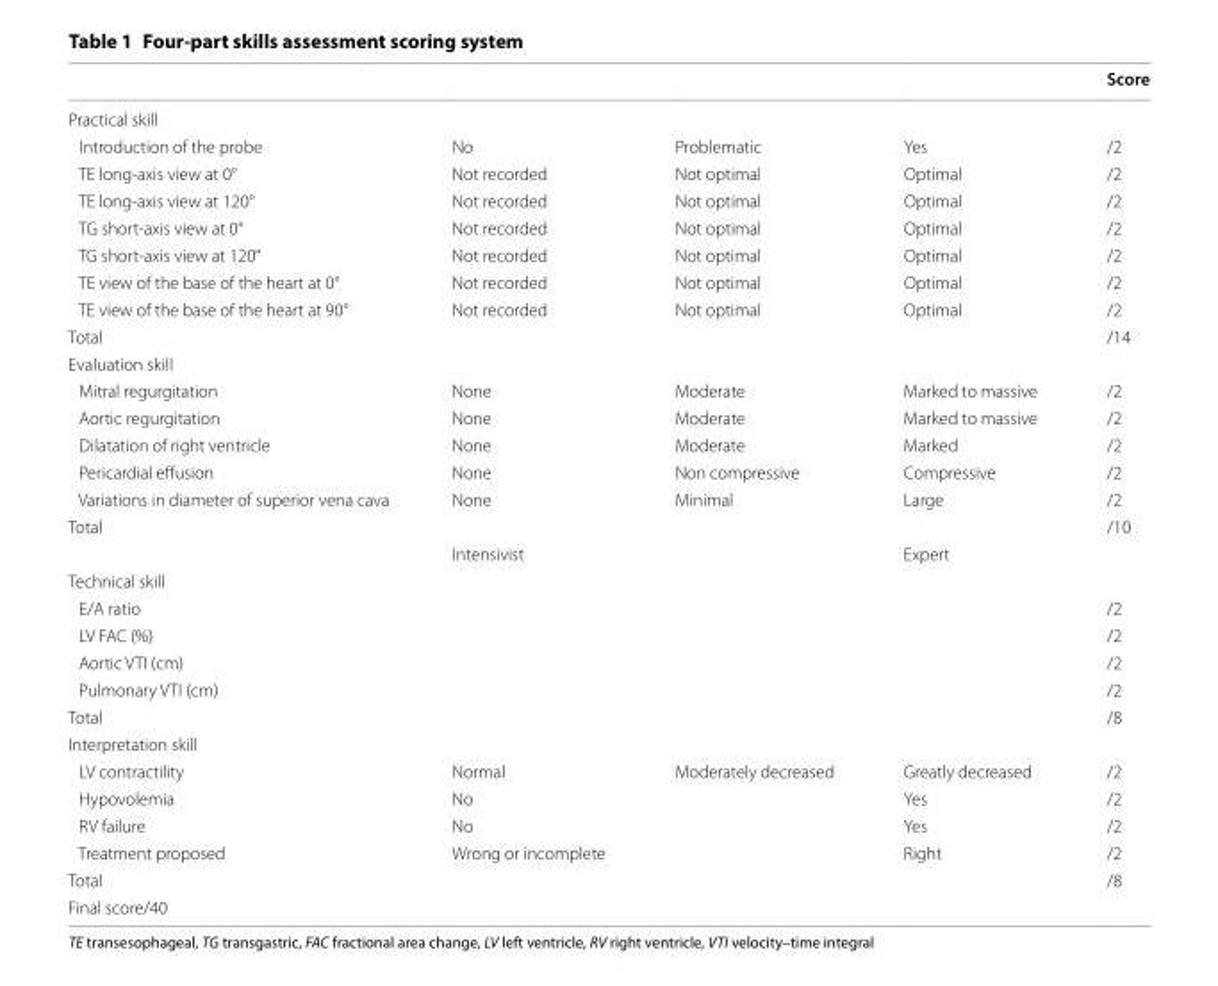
<table><thead><tr><td></td><td></td><td></td><td></td><td>Score</td></tr></thead><tbody><tr><td colspan="5">Practical skill</td></tr><tr><td>Introduction of the probe</td><td>No</td><td>Problematic</td><td>Yes</td><td>/2</td></tr><tr><td>TE long‑axis view at 0°</td><td>Not recorded</td><td>Not optimal</td><td>Optimal</td><td>/2</td></tr><tr><td>TE long‑axis view at 120°</td><td>Not recorded</td><td>Not optimal</td><td>Optimal</td><td>/2</td></tr><tr><td>TG short‑axis view at 0°</td><td>Not recorded</td><td>Not optimal</td><td>Optimal</td><td>/2</td></tr><tr><td>TG short‑axis view at 120°</td><td>Not recorded</td><td>Not optimal</td><td>Optimal</td><td>/2</td></tr><tr><td>TE view of the base of the heart at 0°</td><td>Not recorded</td><td>Not optimal</td><td>Optimal</td><td>/2</td></tr><tr><td>TE view of the base of the heart at 90°</td><td>Not recorded</td><td>Not optimal</td><td>Optimal</td><td>/2</td></tr><tr><td>Total</td><td></td><td></td><td></td><td>/14</td></tr><tr><td colspan="5">Evaluation skill</td></tr><tr><td>Mitral regurgitation</td><td>None</td><td>Moderate</td><td>Marked to massive</td><td>/2</td></tr><tr><td>Aortic regurgitation</td><td>None</td><td>Moderate</td><td>Marked to massive</td><td>/2</td></tr><tr><td>Dilatation of right ventricle</td><td>None</td><td>Moderate</td><td>Marked</td><td>/2</td></tr><tr><td>Pericardial effusion</td><td>None</td><td>Non compressive</td><td>Compressive</td><td>/2</td></tr><tr><td>Variations in diameter of superior vena cava</td><td>None</td><td>Minimal</td><td>Large</td><td>/2</td></tr><tr><td rowspan="2">Total</td><td></td><td></td><td></td><td>/10</td></tr><tr><td>Intensivist</td><td></td><td>Expert</td><td></td></tr><tr><td colspan="5">Technical skill</td></tr><tr><td>E/A ratio</td><td></td><td></td><td></td><td>/2</td></tr><tr><td>LV FAC (%)</td><td></td><td></td><td></td><td>/2</td></tr><tr><td>Aortic VTI (cm)</td><td></td><td></td><td></td><td>/2</td></tr><tr><td>Pulmonary VTI (cm)</td><td></td><td></td><td></td><td>/2</td></tr><tr><td>Total</td><td></td><td></td><td></td><td>/8</td></tr><tr><td colspan="5">Interpretation skill</td></tr><tr><td>LV contractility</td><td>Normal</td><td>Moderately decreased</td><td>Greatly decreased</td><td>/2</td></tr><tr><td>Hypovolemia</td><td>No</td><td></td><td>Yes</td><td>/2</td></tr><tr><td>RV failure</td><td>No</td><td></td><td>Yes</td><td>/2</td></tr><tr><td>Treatment proposed</td><td>Wrong or incomplete</td><td></td><td>Right</td><td>/2</td></tr><tr><td>Total</td><td></td><td></td><td></td><td>/8</td></tr><tr><td>Final score/40</td><td></td><td></td><td></td><td></td></tr></tbody></table>